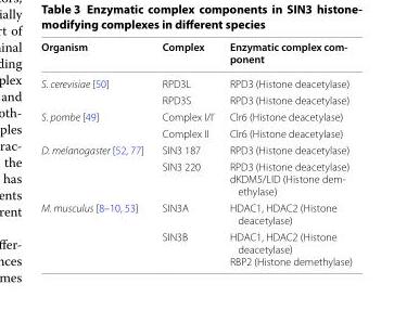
<table><thead><tr><td>Organism</td><td>Complex</td><td>Enzymatic complex com- ponent</td></tr></thead><tbody><tr><td rowspan="2">S. cerevisiae [50]</td><td>RPD3L</td><td>RPD3 (Histone deacetylase)</td></tr><tr><td>RPD3S</td><td>RPD3 (Histone deacetylase)</td></tr><tr><td rowspan="2">S. pombe [49]</td><td>Complex I/I’</td><td>Clr6 (Histone deacetylase)</td></tr><tr><td>Complex II</td><td>Clr6 (Histone deacetylase)</td></tr><tr><td rowspan="2">D. melanogaster [52, 77]</td><td>SIN3 187</td><td>RPD3 (Histone deacetylase)</td></tr><tr><td>SIN3 220</td><td>RPD3 (Histone deacetylase) dKDM5/LID (Histone dem- ethylase)</td></tr><tr><td rowspan="2">M. musculus [8–10, 53]</td><td>SIN3A</td><td>HDAC1, HDAC2 (Histone deacetylase)</td></tr><tr><td>SIN3B</td><td>HDAC1, HDAC2 (Histone deacetylase) RBP2 (Histone demethylase)</td></tr></tbody></table>